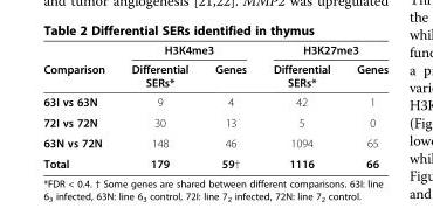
<table><thead><tr><td rowspan="2">Comparison</td><td colspan="2">H3K4me3</td><td colspan="2">H3K27me3</td></tr><tr><td>Differential SERs*</td><td>Genes</td><td>Differential SERs*</td><td>Genes</td></tr></thead><tbody><tr><td>63I vs 63N</td><td>9</td><td>4</td><td>42</td><td>1</td></tr><tr><td>72I vs 72N</td><td>30</td><td>13</td><td>5</td><td>0</td></tr><tr><td>63N vs 72N</td><td>148</td><td>46</td><td>1094</td><td>65</td></tr><tr><td>Total</td><td>179</td><td>59†</td><td>1116</td><td>66</td></tr></tbody></table>